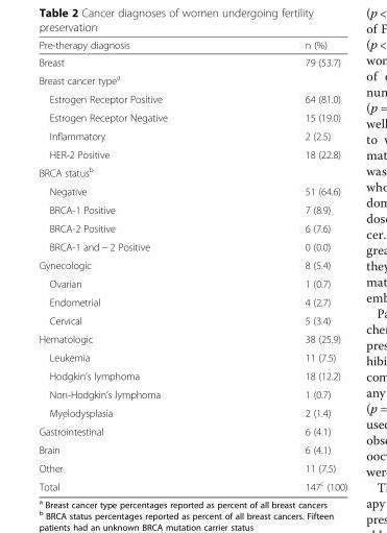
<table><thead><tr><td>Pre-therapy diagnosis</td><td>n (%)</td></tr></thead><tbody><tr><td>Breast</td><td>79 (53.7)</td></tr><tr><td colspan="2">Breast cancer type<sup>a</sup></td></tr><tr><td>Estrogen Receptor Positive</td><td>64 (81.0)</td></tr><tr><td>Estrogen Receptor Negative</td><td>15 (19.0)</td></tr><tr><td>Inflammatory</td><td>2 (2.5)</td></tr><tr><td>HER-2 Positive</td><td>18 (22.8)</td></tr><tr><td colspan="2">BRCA status<sup>b</sup></td></tr><tr><td>Negative</td><td>51 (64.6)</td></tr><tr><td>BRCA-1 Positive</td><td>7 (8.9)</td></tr><tr><td>BRCA-2 Positive</td><td>6 (7.6)</td></tr><tr><td>BRCA-1 and − 2 Positive</td><td>0 (0.0)</td></tr><tr><td>Gynecologic</td><td>8 (5.4)</td></tr><tr><td>Ovarian</td><td>1 (0.7)</td></tr><tr><td>Endometrial</td><td>4 (2.7)</td></tr><tr><td>Cervical</td><td>5 (3.4)</td></tr><tr><td>Hematologic</td><td>38 (25.9)</td></tr><tr><td>Leukemia</td><td>11 (7.5)</td></tr><tr><td>Hodgkin’s lymphoma</td><td>18 (12.2)</td></tr><tr><td>Non-Hodgkin’s lymphoma</td><td>1 (0.7)</td></tr><tr><td>Myelodysplasia</td><td>2 (1.4)</td></tr><tr><td>Gastrointestinal</td><td>6 (4.1)</td></tr><tr><td>Brain</td><td>6 (4.1)</td></tr><tr><td>Other</td><td>11 (7.5)</td></tr><tr><td>Total</td><td>147<sup>c</sup> (100)</td></tr></tbody></table>